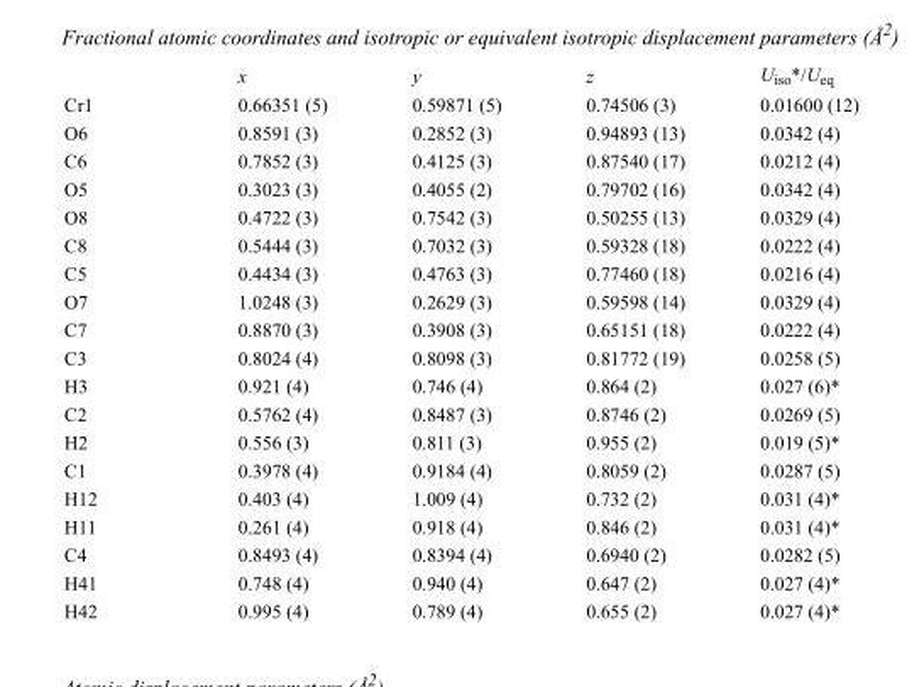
<table><thead><tr><td></td><td>x</td><td>y</td><td>z</td><td>U<sub>iso</sub>*/U<sub>eq</sub></td></tr></thead><tbody><tr><td>Cr1</td><td>0.66351 (5)</td><td>0.59871 (5)</td><td>0.74506 (3)</td><td>0.01600 (12)</td></tr><tr><td>O6</td><td>0.8591 (3)</td><td>0.2852 (3)</td><td>0.94893 (13)</td><td>0.0342 (4)</td></tr><tr><td>C6</td><td>0.7852 (3)</td><td>0.4125 (3)</td><td>0.87540 (17)</td><td>0.0212 (4)</td></tr><tr><td>O5</td><td>0.3023 (3)</td><td>0.4055 (2)</td><td>0.79702 (16)</td><td>0.0342 (4)</td></tr><tr><td>O8</td><td>0.4722 (3)</td><td>0.7542 (3)</td><td>0.50255 (13)</td><td>0.0329 (4)</td></tr><tr><td>C8</td><td>0.5444 (3)</td><td>0.7032 (3)</td><td>0.59328 (18)</td><td>0.0222 (4)</td></tr><tr><td>C5</td><td>0.4434 (3)</td><td>0.4763 (3)</td><td>0.77460 (18)</td><td>0.0216 (4)</td></tr><tr><td>O7</td><td>1.0248 (3)</td><td>0.2629 (3)</td><td>0.59598 (14)</td><td>0.0329 (4)</td></tr><tr><td>C7</td><td>0.8870 (3)</td><td>0.3908 (3)</td><td>0.65151 (18)</td><td>0.0222 (4)</td></tr><tr><td>C3</td><td>0.8024 (4)</td><td>0.8098 (3)</td><td>0.81772 (19)</td><td>0.0258 (5)</td></tr><tr><td>H3</td><td>0.921 (4)</td><td>0.746 (4)</td><td>0.864 (2)</td><td>0.027 (6)*</td></tr><tr><td>C2</td><td>0.5762 (4)</td><td>0.8487 (3)</td><td>0.8746 (2)</td><td>0.0269 (5)</td></tr><tr><td>H2</td><td>0.556 (3)</td><td>0.811 (3)</td><td>0.955 (2)</td><td>0.019 (5)*</td></tr><tr><td>C1</td><td>0.3978 (4)</td><td>0.9184 (4)</td><td>0.8059 (2)</td><td>0.0287 (5)</td></tr><tr><td>H12</td><td>0.403 (4)</td><td>1.009 (4)</td><td>0.732 (2)</td><td>0.031 (4)*</td></tr><tr><td>H11</td><td>0.261 (4)</td><td>0.918 (4)</td><td>0.846 (2)</td><td>0.031 (4)*</td></tr><tr><td>C4</td><td>0.8493 (4)</td><td>0.8394 (4)</td><td>0.6940 (2)</td><td>0.0282 (5)</td></tr><tr><td>H41</td><td>0.748 (4)</td><td>0.940 (4)</td><td>0.647 (2)</td><td>0.027 (4)*</td></tr><tr><td>H42</td><td>0.995 (4)</td><td>0.789 (4)</td><td>0.655 (2)</td><td>0.027 (4)*</td></tr></tbody></table>